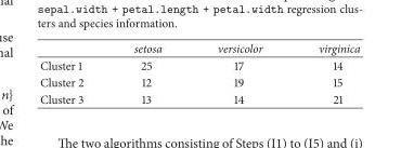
<table><thead><tr><td></td><td>setosa</td><td>versicolor</td><td>virginica</td></tr></thead><tbody><tr><td>Cluster 1</td><td>25</td><td>17</td><td>14</td></tr><tr><td>Cluster 2</td><td>12</td><td>19</td><td>15</td></tr><tr><td>Cluster 3</td><td>13</td><td>14</td><td>21</td></tr></tbody></table>